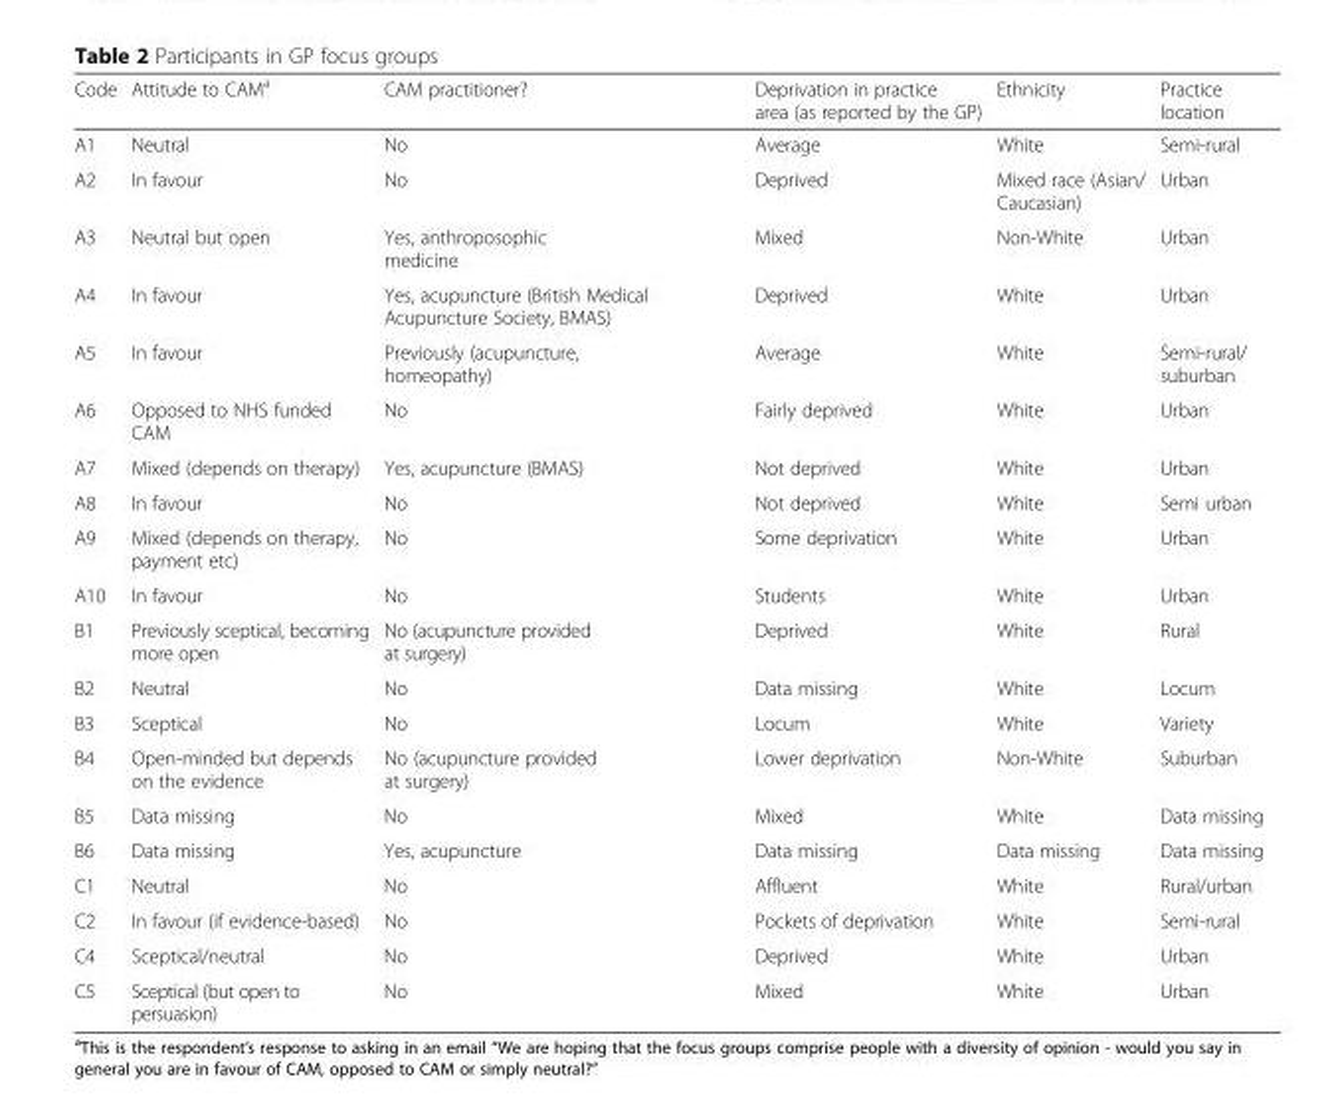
<table><thead><tr><td>Code</td><td>Attitude to CAM<sup>a</sup></td><td>CAM practitioner?</td><td>Deprivation in practice area (as reported by the GP)</td><td>Ethnicity</td><td>Practice location</td></tr></thead><tbody><tr><td>A1</td><td>Neutral</td><td>No</td><td>Average</td><td>White</td><td>Semi-rural</td></tr><tr><td>A2</td><td>In favour</td><td>No</td><td>Deprived</td><td>Mixed race (Asian/ Caucasian)</td><td>Urban</td></tr><tr><td>A3</td><td>Neutral but open</td><td>Yes, anthroposophic medicine</td><td>Mixed</td><td>Non-White</td><td>Urban</td></tr><tr><td>A4</td><td>In favour</td><td>Yes, acupuncture (British Medical Acupuncture Society, BMAS)</td><td>Deprived</td><td>White</td><td>Urban</td></tr><tr><td>A5</td><td>In favour</td><td>Previously (acupuncture, homeopathy)</td><td>Average</td><td>White</td><td>Semi-rural/ suburban</td></tr><tr><td>A6</td><td>Opposed to NHS funded CAM</td><td>No</td><td>Fairly deprived</td><td>White</td><td>Urban</td></tr><tr><td>A7</td><td>Mixed (depends on therapy)</td><td>Yes, acupuncture (BMAS)</td><td>Not deprived</td><td>White</td><td>Urban</td></tr><tr><td>A8</td><td>In favour</td><td>No</td><td>Not deprived</td><td>White</td><td>Semi urban</td></tr><tr><td>A9</td><td>Mixed (depends on therapy, payment etc)</td><td>No</td><td>Some deprivation</td><td>White</td><td>Urban</td></tr><tr><td>A10</td><td>In favour</td><td>No</td><td>Students</td><td>White</td><td>Urban</td></tr><tr><td>B1</td><td>Previously sceptical, becoming more open</td><td>No (acupuncture provided at surgery)</td><td>Deprived</td><td>White</td><td>Rural</td></tr><tr><td>B2</td><td>Neutral</td><td>No</td><td>Data missing</td><td>White</td><td>Locum</td></tr><tr><td>B3</td><td>Sceptical</td><td>No</td><td>Locum</td><td>White</td><td>Variety</td></tr><tr><td>B4</td><td>Open-minded but depends on the evidence</td><td>No (acupuncture provided at surgery)</td><td>Lower deprivation</td><td>Non-White</td><td>Suburban</td></tr><tr><td>B5</td><td>Data missing</td><td>No</td><td>Mixed</td><td>White</td><td>Data missing</td></tr><tr><td>B6</td><td>Data missing</td><td>Yes, acupuncture</td><td>Data missing</td><td>Data missing</td><td>Data missing</td></tr><tr><td>C1</td><td>Neutral</td><td>No</td><td>Affluent</td><td>White</td><td>Rural/urban</td></tr><tr><td>C2</td><td>In favour (if evidence-based)</td><td>No</td><td>Pockets of deprivation</td><td>White</td><td>Semi-rural</td></tr><tr><td>C4</td><td>Sceptical/neutral</td><td>No</td><td>Deprived</td><td>White</td><td>Urban</td></tr><tr><td>C5</td><td>Sceptical (but open to persuasion)</td><td>No</td><td>Mixed</td><td>White</td><td>Urban</td></tr></tbody></table>